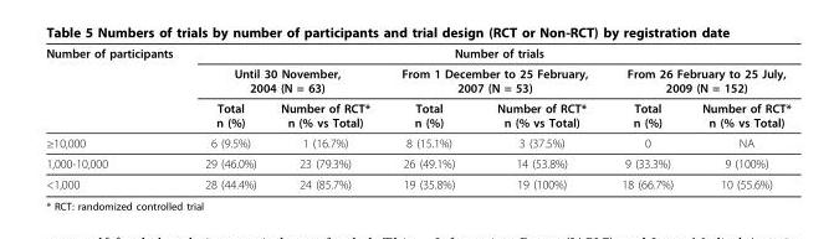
<table><thead><tr><td rowspan="3">Number of participants</td><td colspan="6">Number of trials</td></tr><tr><td colspan="2">Until 30 November, 2004 (N = 63)</td><td colspan="2">From 1 December to 25 February, 2007 (N = 53)</td><td colspan="2">From 26 February to 25 July, 2009 (N = 152)</td></tr><tr><td>Total n (%)</td><td>Number of RCT* n (% vs Total)</td><td>Total n (%)</td><td>Number of RCT* n (% vs Total)</td><td>Total n (%)</td><td>Number of RCT* n (% vs Total)</td></tr></thead><tbody><tr><td>≥10,000</td><td>6 (9.5%)</td><td>1 (16.7%)</td><td>8 (15.1%)</td><td>3 (37.5%)</td><td>0</td><td>NA</td></tr><tr><td>1,000-10,000</td><td>29 (46.0%)</td><td>23 (79.3%)</td><td>26 (49.1%)</td><td>14 (53.8%)</td><td>9 (33.3%)</td><td>9 (100%)</td></tr><tr><td>&lt;1,000</td><td>28 (44.4%)</td><td>24 (85.7%)</td><td>19 (35.8%)</td><td>19 (100%)</td><td>18 (66.7%)</td><td>10 (55.6%)</td></tr></tbody></table>